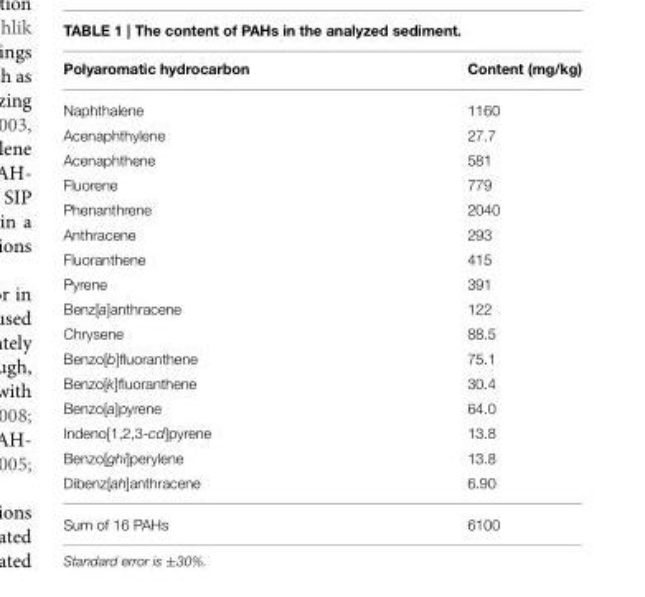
<table><thead><tr><td>Polyaromatic hydrocarbon</td><td>Content (mg/kg)</td></tr></thead><tbody><tr><td>Naphthalene</td><td>1160</td></tr><tr><td>Acenaphthylene</td><td>27.7</td></tr><tr><td>Acenaphthene</td><td>581</td></tr><tr><td>Fluorene</td><td>779</td></tr><tr><td>Phenanthrene</td><td>2040</td></tr><tr><td>Anthracene</td><td>293</td></tr><tr><td>Fluoranthene</td><td>415</td></tr><tr><td>Pyrene</td><td>391</td></tr><tr><td>Benz[a]anthracene</td><td>122</td></tr><tr><td>Chrysene</td><td>88.5</td></tr><tr><td>Benzo[b]fluoranthene</td><td>75.1</td></tr><tr><td>Benzo[k]fluoranthene</td><td>30.4</td></tr><tr><td>Benzo[a]pyrene</td><td>64.0</td></tr><tr><td>Indeno[1,2,3-cd]pyrene</td><td>13.8</td></tr><tr><td>Benzo[ghi]perylene</td><td>13.8</td></tr><tr><td>Dibenz[ah]anthracene</td><td>6.90</td></tr><tr><td>Sum of 16 PAHs</td><td>6100</td></tr></tbody></table>